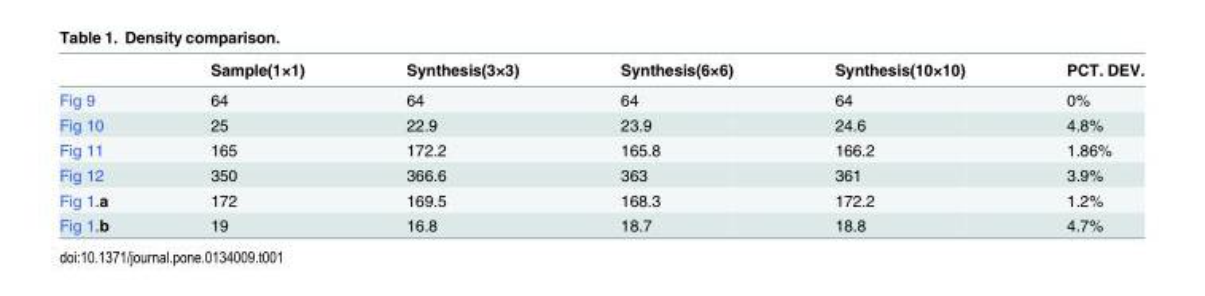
<table><thead><tr><td></td><td>Sample(1×1)</td><td>Synthesis(3×3)</td><td>Synthesis(6×6)</td><td>Synthesis(10×10)</td><td>PCT. DEV.</td></tr></thead><tbody><tr><td>Fig 9</td><td>64</td><td>64</td><td>64</td><td>64</td><td>0%</td></tr><tr><td>Fig 10</td><td>25</td><td>22.9</td><td>23.9</td><td>24.6</td><td>4.8%</td></tr><tr><td>Fig 11</td><td>165</td><td>172.2</td><td>165.8</td><td>166.2</td><td>1.86%</td></tr><tr><td>Fig 12</td><td>350</td><td>366.6</td><td>363</td><td>361</td><td>3.9%</td></tr><tr><td>Fig 1.a</td><td>172</td><td>169.5</td><td>168.3</td><td>172.2</td><td>1.2%</td></tr><tr><td>Fig 1.b</td><td>19</td><td>16.8</td><td>18.7</td><td>18.8</td><td>4.7%</td></tr></tbody></table>